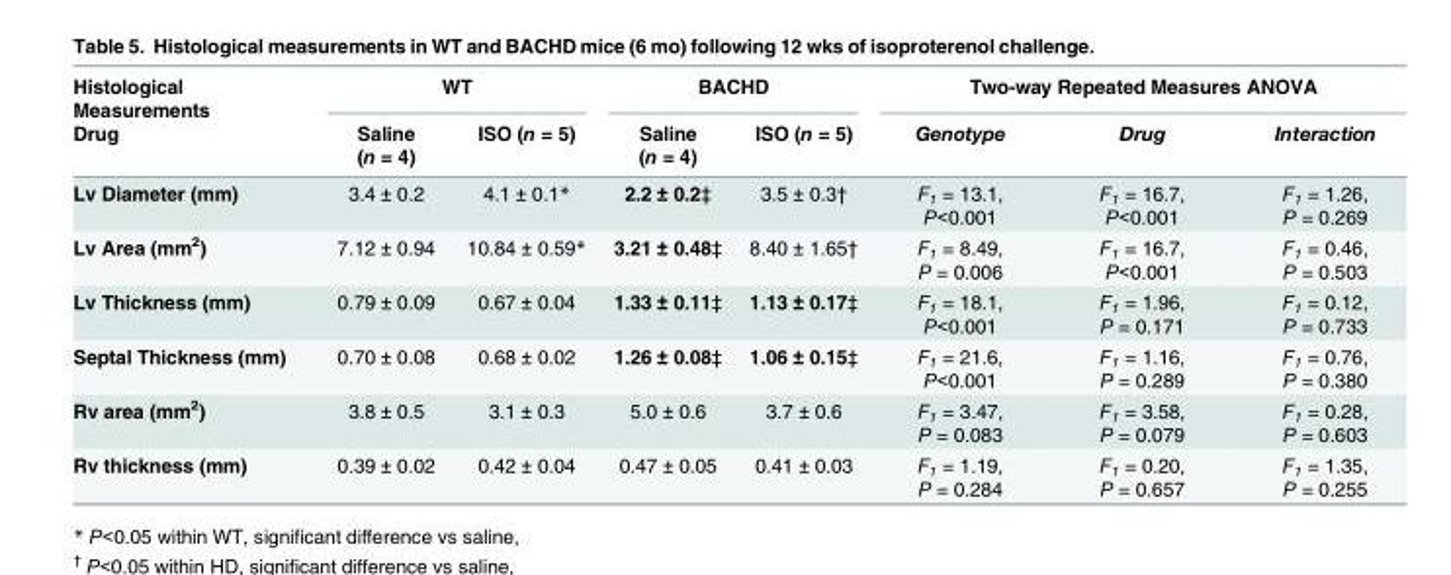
<table><thead><tr><td rowspan="2">Histological Measurements Drug</td><td colspan="2">WT</td><td colspan="2">BACHD</td><td colspan="3">Two-way Repeated Measures ANOVA</td></tr><tr><td>Saline (n = 4)</td><td>ISO (n = 5)</td><td>Saline (n = 4)</td><td>ISO (n = 5)</td><td>Genotype</td><td>Drug</td><td>Interaction</td></tr></thead><tbody><tr><td>Lv Diameter (mm)</td><td>3.4 ± 0.2</td><td>4.1 ± 0.1*</td><td>2.2 ± 0.2‡</td><td>3.5 ± 0.3†</td><td>F<sub>1</sub> = 13.1, P&lt;0.001</td><td>F<sub>1</sub> = 16.7, P&lt;0.001</td><td>F<sub>1</sub> = 1.26, P = 0.269</td></tr><tr><td>Lv Area (mm<sup>2</sup>)</td><td>7.12 ± 0.94</td><td>10.84 ± 0.59*</td><td>3.21 ± 0.48‡</td><td>8.40 ± 1.65†</td><td>F<sub>1</sub> = 8.49, P = 0.006</td><td>F<sub>1</sub> = 16.7, P&lt;0.001</td><td>F<sub>1</sub> = 0.46, P = 0.503</td></tr><tr><td>Lv Thickness (mm)</td><td>0.79 ± 0.09</td><td>0.67 ± 0.04</td><td>1.33 ± 0.11‡</td><td>1.13 ± 0.17‡</td><td>F<sub>1</sub> = 18.1, P&lt;0.001</td><td>F<sub>1</sub> = 1.96, P = 0.171</td><td>F<sub>1</sub> = 0.12, P = 0.733</td></tr><tr><td>Septal Thickness (mm)</td><td>0.70 ± 0.08</td><td>0.68 ± 0.02</td><td>1.26 ± 0.08‡</td><td>1.06 ± 0.15‡</td><td>F<sub>1</sub> = 21.6, P&lt;0.001</td><td>F<sub>1</sub> = 1.16, P = 0.289</td><td>F<sub>1</sub> = 0.76, P = 0.380</td></tr><tr><td>Rv area (mm<sup>2</sup>)</td><td>3.8 ± 0.5</td><td>3.1 ± 0.3</td><td>5.0 ± 0.6</td><td>3.7 ± 0.6</td><td>F<sub>1</sub> = 3.47, P = 0.083</td><td>F<sub>1</sub> = 3.58, P = 0.079</td><td>F<sub>1</sub> = 0.28, P = 0.603</td></tr><tr><td>Rv thickness (mm)</td><td>0.39 ± 0.02</td><td>0.42 ± 0.04</td><td>0.47 ± 0.05</td><td>0.41 ± 0.03</td><td>F<sub>1</sub> = 1.19, P = 0.284</td><td>F<sub>1</sub> = 0.20, P = 0.657</td><td>F<sub>1</sub> = 1.35, P = 0.255</td></tr></tbody></table>